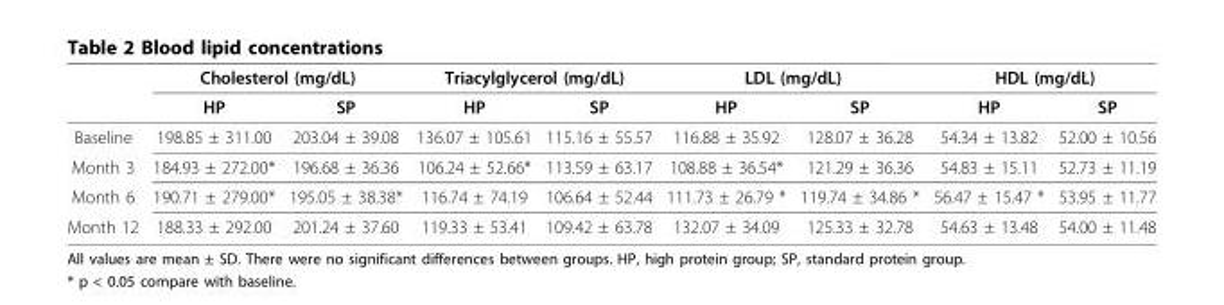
<table><thead><tr><td rowspan="2"></td><td colspan="2">Cholesterol (mg/dL)</td><td colspan="2">Triacylglycerol (mg/dL)</td><td colspan="2">LDL (mg/dL)</td><td colspan="2">HDL (mg/dL)</td></tr><tr><td>HP</td><td>SP</td><td>HP</td><td>SP</td><td>HP</td><td>SP</td><td>HP</td><td>SP</td></tr></thead><tbody><tr><td>Baseline</td><td>198.85 ± 311.00</td><td>203.04 ± 39.08</td><td>136.07 ± 105.61</td><td>115.16 ± 55.57</td><td>116.88 ± 35.92</td><td>128.07 ± 36.28</td><td>54.34 ± 13.82</td><td>52.00 ± 10.56</td></tr><tr><td>Month 3</td><td>184.93 ± 272.00*</td><td>196.68 ± 36.36</td><td>106.24 ± 52.66*</td><td>113.59 ± 63.17</td><td>108.88 ± 36.54*</td><td>121.29 ± 36.36</td><td>54.83 ± 15.11</td><td>52.73 ± 11.19</td></tr><tr><td>Month 6</td><td>190.71 ± 279.00*</td><td>195.05 ± 38.38*</td><td>116.74 ± 74.19</td><td>106.64 ± 52.44</td><td>111.73 ± 26.79 *</td><td>119.74 ± 34.86 *</td><td>56.47 ± 15.47 *</td><td>53.95 ± 11.77</td></tr><tr><td>Month 12</td><td>188.33 ± 292.00</td><td>201.24 ± 37.60</td><td>119.33 ± 53.41</td><td>109.42 ± 63.78</td><td>132.07 ± 34.09</td><td>125.33 ± 32.78</td><td>54.63 ± 13.48</td><td>54.00 ± 11.48</td></tr></tbody></table>